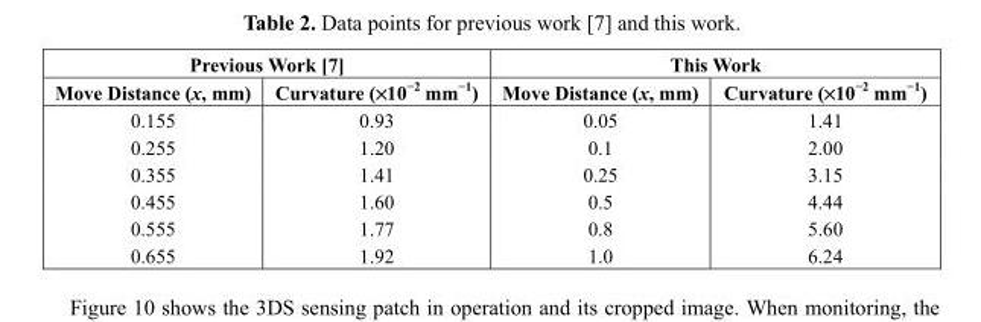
<table><thead><tr><td colspan="2">Previous Work [7]</td><td colspan="2">This Work</td></tr><tr><td>Move Distance (x, mm)</td><td>Curvature (×10<sup>−2</sup> mm<sup>−1</sup>)</td><td>Move Distance (x, mm)</td><td>Curvature (×10<sup>−2</sup> mm<sup>−1</sup>)</td></tr></thead><tbody><tr><td>0.155</td><td>0.93</td><td>0.05</td><td>1.41</td></tr><tr><td>0.255</td><td>1.20</td><td>0.1</td><td>2.00</td></tr><tr><td>0.355</td><td>1.41</td><td>0.25</td><td>3.15</td></tr><tr><td>0.455</td><td>1.60</td><td>0.5</td><td>4.44</td></tr><tr><td>0.555</td><td>1.77</td><td>0.8</td><td>5.60</td></tr><tr><td>0.655</td><td>1.92</td><td>1.0</td><td>6.24</td></tr></tbody></table>